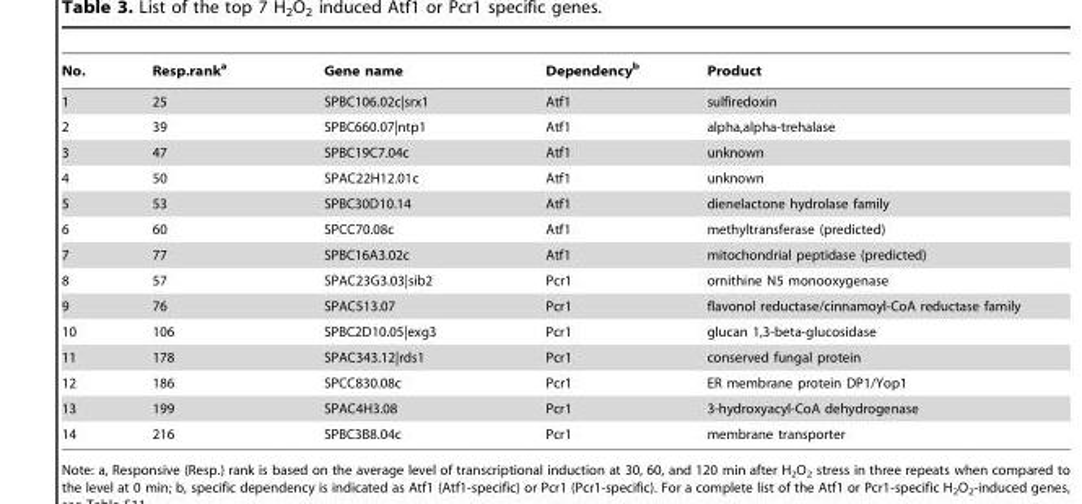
<table><thead><tr><td>No.</td><td>Resp.rank<sup>a</sup></td><td>Gene name</td><td>Dependency<sup>b</sup></td><td>Product</td></tr></thead><tbody><tr><td>1</td><td>25</td><td>SPBC106.02c|srx1</td><td>Atf1</td><td>sulfiredoxin</td></tr><tr><td>2</td><td>39</td><td>SPBC660.07|ntp1</td><td>Atf1</td><td>alpha,alpha-trehalase</td></tr><tr><td>3</td><td>47</td><td>SPBC19C7.04c</td><td>Atf1</td><td>unknown</td></tr><tr><td>4</td><td>50</td><td>SPAC22H12.01c</td><td>Atf1</td><td>unknown</td></tr><tr><td>5</td><td>53</td><td>SPBC30D10.14</td><td>Atf1</td><td>dienelactone hydrolase family</td></tr><tr><td>6</td><td>60</td><td>SPCC70.08c</td><td>Atf1</td><td>methyltransferase (predicted)</td></tr><tr><td>7</td><td>77</td><td>SPBC16A3.02c</td><td>Atf1</td><td>mitochondrial peptidase (predicted)</td></tr><tr><td>8</td><td>57</td><td>SPAC23G3.03|sib2</td><td>Pcr1</td><td>ornithine N5 monooxygenase</td></tr><tr><td>9</td><td>76</td><td>SPAC513.07</td><td>Pcr1</td><td>flavonol reductase/cinnamoyl-CoA reductase family</td></tr><tr><td>10</td><td>106</td><td>SPBC2D10.05|exg3</td><td>Pcr1</td><td>glucan 1,3-beta-glucosidase</td></tr><tr><td>11</td><td>178</td><td>SPAC343.12|rds1</td><td>Pcr1</td><td>conserved fungal protein</td></tr><tr><td>12</td><td>186</td><td>SPCC830.08c</td><td>Pcr1</td><td>ER membrane protein DP1/Yop1</td></tr><tr><td>13</td><td>199</td><td>SPAC4H3.08</td><td>Pcr1</td><td>3-hydroxyacyl-CoA dehydrogenase</td></tr><tr><td>14</td><td>216</td><td>SPBC3B8.04c</td><td>Pcr1</td><td>membrane transporter</td></tr></tbody></table>